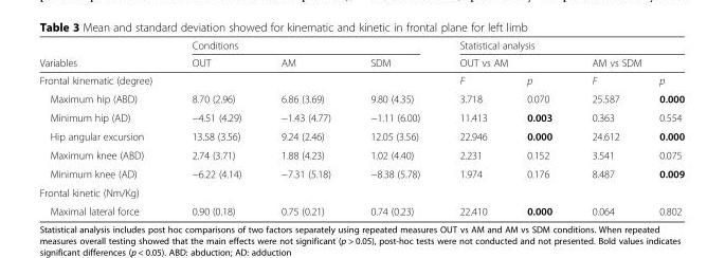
<table><thead><tr><td rowspan="3">Variables Frontal kinematic (degree)</td><td colspan="3">Conditions</td><td colspan="4">Statistical analysis</td></tr><tr><td rowspan="2">OUT</td><td rowspan="2">AM</td><td rowspan="2">SDM</td><td colspan="2">OUT vs AM</td><td colspan="2">AM vs SDM</td></tr><tr><td>F</td><td>p</td><td>F</td><td>p</td></tr></thead><tbody><tr><td>Maximum hip (ABD)</td><td>8.70 (2.96)</td><td>6.86 (3.69)</td><td>9.80 (4.35)</td><td>3.718</td><td>0.070</td><td>25.587</td><td>0.000</td></tr><tr><td>Minimum hip (AD)</td><td>−4.51 (4.29)</td><td>−1.43 (4.77)</td><td>−1.11 (6.00)</td><td>11.413</td><td>0.003</td><td>0.363</td><td>0.554</td></tr><tr><td>Hip angular excursion</td><td>13.58 (3.56)</td><td>9.24 (2.46)</td><td>12.05 (3.56)</td><td>22.946</td><td>0.000</td><td>24.612</td><td>0.000</td></tr><tr><td>Maximum knee (ABD)</td><td>2.74 (3.71)</td><td>1.88 (4.23)</td><td>1.02 (4.40)</td><td>2.231</td><td>0.152</td><td>3.541</td><td>0.075</td></tr><tr><td>Minimum knee (AD)</td><td>−6.22 (4.14)</td><td>−7.31 (5.18)</td><td>−8.38 (5.78)</td><td>1.974</td><td>0.176</td><td>8.487</td><td>0.009</td></tr><tr><td colspan="8">Frontal kinetic (Nm/Kg)</td></tr><tr><td>Maximal lateral force</td><td>0.90 (0.18)</td><td>0.75 (0.21)</td><td>0.74 (0.23)</td><td>22.410</td><td>0.000</td><td>0.064</td><td>0.802</td></tr></tbody></table>